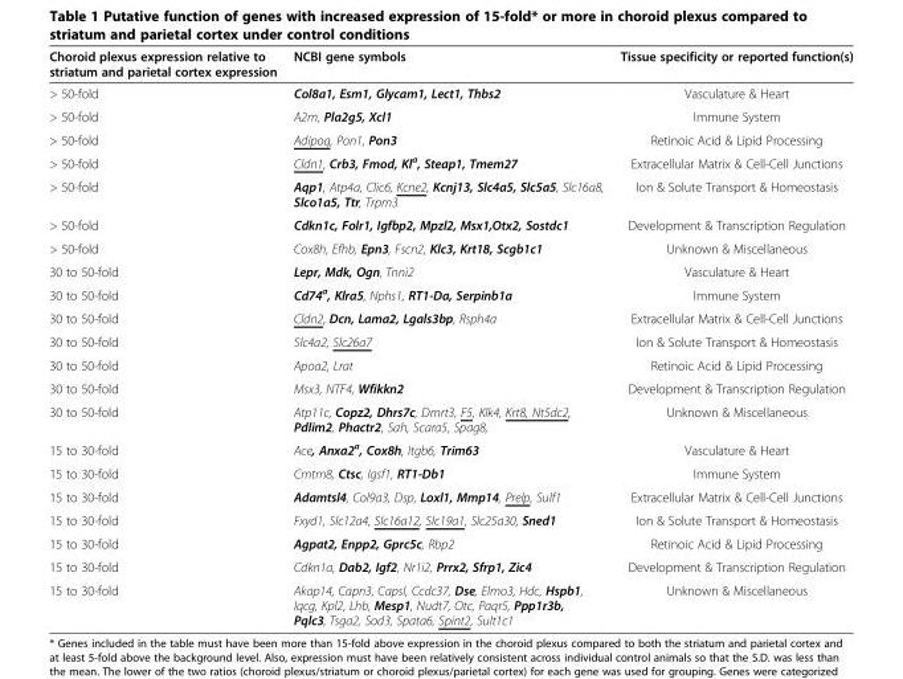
<table><thead><tr><td>Choroid plexus expression relative to striatum and parietal cortex expression</td><td>NCBI gene symbols</td><td>Tissue specificity or reported function(s)</td></tr></thead><tbody><tr><td>&gt; 50-fold</td><td>Col8a1, Esm1, Glycam1, Lect1, Thbs2</td><td>Vasculature &amp; Heart</td></tr><tr><td>&gt; 50-fold</td><td>A2m, Pla2g5, Xcl1</td><td>Immune System</td></tr><tr><td>&gt; 50-fold</td><td>Adipoq, Pon1, Pon3</td><td>Retinoic Acid &amp; Lipid Processing</td></tr><tr><td>&gt; 50-fold</td><td>Cldn1, Crb3, Fmod, Kl<sup>a</sup>, Steap1, Tmem27</td><td>Extracellular Matrix &amp; Cell-Cell Junctions</td></tr><tr><td>&gt; 50-fold</td><td>Aqp1, Atp4a, Clic6, Kcne2, Kcnj13, Slc4a5, Slc5a5, Slc16a8, Slco1a5, Ttr, Trpm3</td><td>Ion &amp; Solute Transport &amp; Homeostasis</td></tr><tr><td>&gt; 50-fold</td><td>Cdkn1c, Folr1, Igfbp2, Mpzl2, Msx1,Otx2, Sostdc1</td><td>Development &amp; Transcription Regulation</td></tr><tr><td>&gt; 50-fold</td><td>Cox8h, Efhb, Epn3, Fscn2, Klc3, Krt18, Scgb1c1</td><td>Unknown &amp; Miscellaneous</td></tr><tr><td>30 to 50-fold</td><td>Lepr, Mdk, Ogn, Tnni2</td><td>Vasculature &amp; Heart</td></tr><tr><td>30 to 50-fold</td><td>Cd74<sup>a</sup>, Klra5, Nphs1, RT1-Da, Serpinb1a</td><td>Immune System</td></tr><tr><td>30 to 50-fold</td><td>Cldn2, Dcn, Lama2, Lgals3bp, Rsph4a</td><td>Extracellular Matrix &amp; Cell-Cell Junctions</td></tr><tr><td>30 to 50-fold</td><td>Slc4a2, Slc26a7</td><td>Ion &amp; Solute Transport &amp; Homeostasis</td></tr><tr><td>30 to 50-fold</td><td>Apoa2, Lrat</td><td>Retinoic Acid &amp; Lipid Processing</td></tr><tr><td>30 to 50-fold</td><td>Msx3, NTF4, Wfikkn2</td><td>Development &amp; Transcription Regulation</td></tr><tr><td>30 to 50-fold</td><td>Atp11c, Copz2, Dhrs7c, Dmrt3, F5, Klk4, Krt8, Nt5dc2, Pdlim2, Phactr2, Sah, Scara5, Spag8,</td><td>Unknown &amp; Miscellaneous</td></tr><tr><td>15 to 30-fold</td><td>Ace, Anxa2<sup>a</sup>, Cox8h, Itgb6, Trim63</td><td>Vasculature &amp; Heart</td></tr><tr><td>15 to 30-fold</td><td>Cmtm8, Ctsc, Igsf1, RT1-Db1</td><td>Immune System</td></tr><tr><td>15 to 30-fold</td><td>Adamtsl4, Col9a3, Dsp, Loxl1, Mmp14, Prelp, Sulf1</td><td>Extracellular Matrix &amp; Cell-Cell Junctions</td></tr><tr><td>15 to 30-fold</td><td>Fxyd1, Slc12a4, Slc16a12, Slc19a1, Slc25a30, Sned1</td><td>Ion &amp; Solute Transport &amp; Homeostasis</td></tr><tr><td>15 to 30-fold</td><td>Agpat2, Enpp2, Gprc5c, Rbp2</td><td>Retinoic Acid &amp; Lipid Processing</td></tr><tr><td>15 to 30-fold</td><td>Cdkn1a, Dab2, Igf2, Nr1i2, Prrx2, Sfrp1, Zic4</td><td>Development &amp; Transcription Regulation</td></tr><tr><td>15 to 30-fold</td><td>Akap14, Capn3, Capsl, Ccdc37, Dse, Elmo3, Hdc, Hspb1, Iqcg, Kpl2, Lhb, Mesp1, Nudt7, Otc, Paqr5, Ppp1r3b, Pqlc3, Tsga2, Sod3, Spata6, Spint2, Sult1c1</td><td>Unknown &amp; Miscellaneous</td></tr></tbody></table>